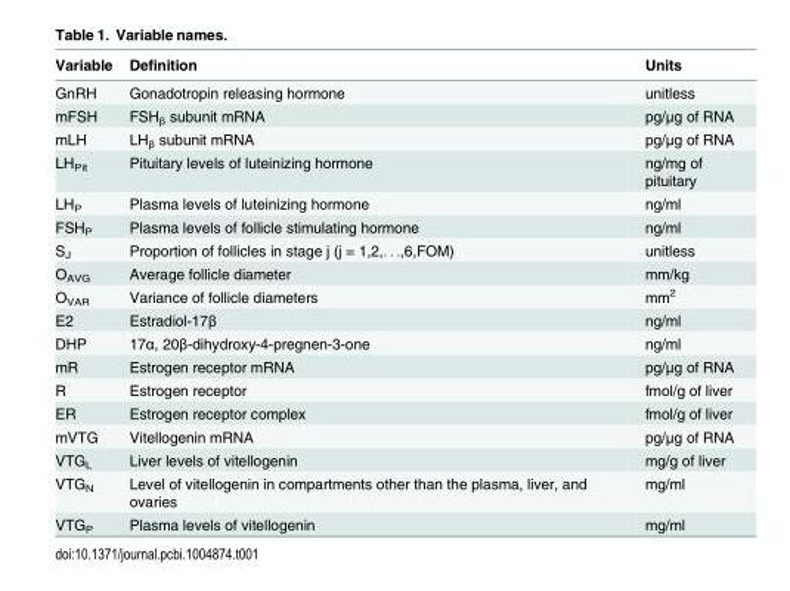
<table><thead><tr><td>Variable</td><td>Definition</td><td>Units</td></tr></thead><tbody><tr><td>GnRH</td><td>Gonadotropin releasing hormone</td><td>unitless</td></tr><tr><td>mFSH</td><td>FSH<sub>β</sub> subunit mRNA</td><td>pg/μg of RNA</td></tr><tr><td>mLH</td><td>LH<sub>β</sub> subunit mRNA</td><td>pg/μg of RNA</td></tr><tr><td>LH<sub>Pit</sub></td><td>Pituitary levels of luteinizing hormone</td><td>ng/mg of pituitary</td></tr><tr><td>LH<sub>P</sub></td><td>Plasma levels of luteinizing hormone</td><td>ng/ml</td></tr><tr><td>FSH<sub>P</sub></td><td>Plasma levels of follicle stimulating hormone</td><td>ng/ml</td></tr><tr><td>S<sub>J</sub></td><td>Proportion of follicles in stage j (j = 1,2,. . .,6,FOM)</td><td>unitless</td></tr><tr><td>O<sub>AVG</sub></td><td>Average follicle diameter</td><td>mm/kg</td></tr><tr><td>O<sub>VAR</sub></td><td>Variance of follicle diameters</td><td>mm<sup>2</sup></td></tr><tr><td>E2</td><td>Estradiol-17β</td><td>ng/ml</td></tr><tr><td>DHP</td><td>17α, 20β-dihydroxy-4-pregnen-3-one</td><td>ng/ml</td></tr><tr><td>mR</td><td>Estrogen receptor mRNA</td><td>pg/μg of RNA</td></tr><tr><td>R</td><td>Estrogen receptor</td><td>fmol/g of liver</td></tr><tr><td>ER</td><td>Estrogen receptor complex</td><td>fmol/g of liver</td></tr><tr><td>mVTG</td><td>Vitellogenin mRNA</td><td>pg/μg of RNA</td></tr><tr><td>VTG<sub>L</sub></td><td>Liver levels of vitellogenin</td><td>mg/g of liver</td></tr><tr><td>VTG<sub>N</sub></td><td>Level of vitellogenin in compartments other than the plasma, liver, and ovaries</td><td>mg/ml</td></tr><tr><td>VTG<sub>P</sub></td><td>Plasma levels of vitellogenin</td><td>mg/ml</td></tr></tbody></table>